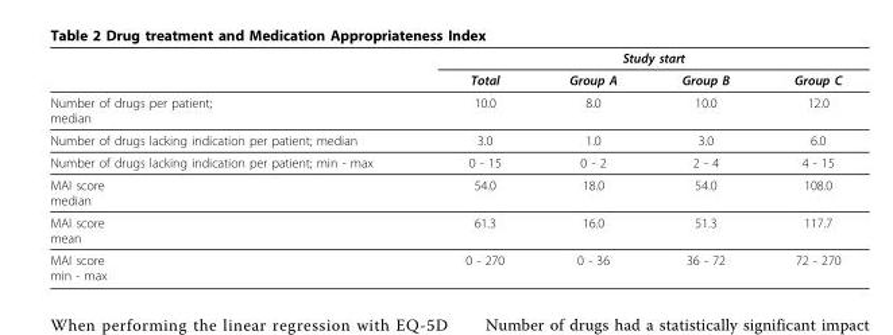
<table><thead><tr><td rowspan="2"></td><td colspan="4">Study start</td></tr><tr><td>Total</td><td>Group A</td><td>Group B</td><td>Group C</td></tr></thead><tbody><tr><td>Number of drugs per patient; median</td><td>10.0</td><td>8.0</td><td>10.0</td><td>12.0</td></tr><tr><td>Number of drugs lacking indication per patient; median</td><td>3.0</td><td>1.0</td><td>3.0</td><td>6.0</td></tr><tr><td>Number of drugs lacking indication per patient; min - max</td><td>0 - 15</td><td>0 - 2</td><td>2 - 4</td><td>4 - 15</td></tr><tr><td>MAI score median</td><td>54.0</td><td>18.0</td><td>54.0</td><td>108.0</td></tr><tr><td>MAI score mean</td><td>61.3</td><td>16.0</td><td>51.3</td><td>117.7</td></tr><tr><td>MAI score min - max</td><td>0 - 270</td><td>0 - 36</td><td>36 - 72</td><td>72 - 270</td></tr></tbody></table>